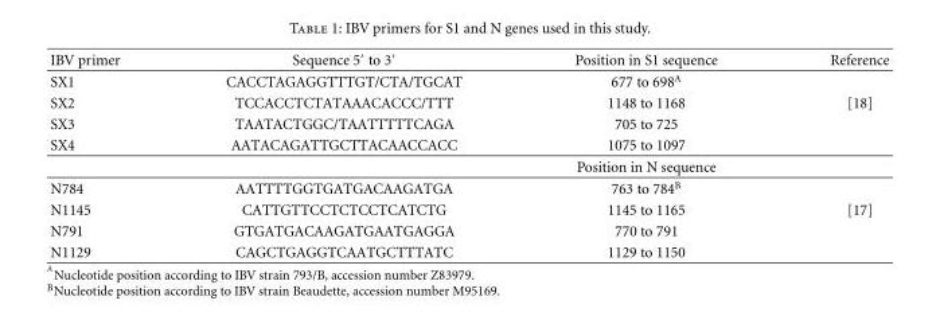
<table><thead><tr><td>IBV primer</td><td>Sequence 5′ to 3′</td><td>Position in S1 sequence</td><td>Reference</td></tr></thead><tbody><tr><td>SX1</td><td>CACCTAGAGGTTTGT/CTA/TGCAT</td><td>677 to 698<sup>A</sup></td><td></td></tr><tr><td>SX2</td><td>TCCACCTCTATAAACACCC/TTT</td><td>1148 to 1168</td><td>[18]</td></tr><tr><td>SX3</td><td>TAATACTGGC/TAATTTTTCAGA</td><td>705 to 725</td><td></td></tr><tr><td rowspan="2">SX4</td><td>AATACAGATTGCTTACAACCACC</td><td>1075 to 1097</td><td></td></tr><tr><td></td><td>Position in N sequence</td><td></td></tr><tr><td>N784</td><td>AATTTTGGTGATGACAAGATGA</td><td>763 to 784<sup>B</sup></td><td></td></tr><tr><td>N1145</td><td>CATTGTTCCTCTCCTCATCTG</td><td>1145 to 1165</td><td>[17]</td></tr><tr><td>N791</td><td>GTGATGACAAGATGAATGAGGA</td><td>770 to 791</td><td></td></tr><tr><td>N1129</td><td>CAGCTGAGGTCAATGCTTTATC</td><td>1129 to 1150</td><td></td></tr></tbody></table>